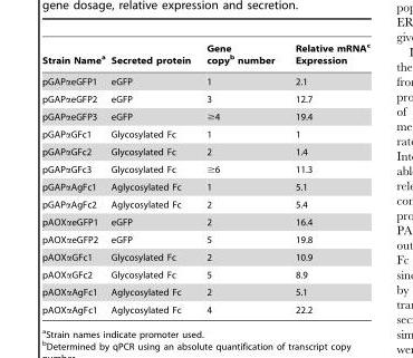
<table><thead><tr><td>Strain Name<sup>a</sup></td><td>Secreted protein</td><td>Gene copy<sup>b</sup> number</td><td>Relative mRNA<sup>c</sup> Expression</td></tr></thead><tbody><tr><td>pGAPαeGFP1</td><td>eGFP</td><td>1</td><td>2.1</td></tr><tr><td>pGAPαeGFP2</td><td>eGFP</td><td>3</td><td>12.7</td></tr><tr><td>pGAPαeGFP3</td><td>eGFP</td><td>≥4</td><td>19.4</td></tr><tr><td>pGAPαGFc1</td><td>Glycosylated Fc</td><td>1</td><td>1</td></tr><tr><td>pGAPαGFc2</td><td>Glycosylated Fc</td><td>2</td><td>1.4</td></tr><tr><td>pGAPαGFc3</td><td>Glycosylated Fc</td><td>≥6</td><td>11.3</td></tr><tr><td>pGAPαAgFc1</td><td>Aglycosylated Fc</td><td>1</td><td>5.1</td></tr><tr><td>pGAPαAgFc2</td><td>Aglycosylated Fc</td><td>2</td><td>5.4</td></tr><tr><td>pAOXαeGFP1</td><td>eGFP</td><td>2</td><td>16.4</td></tr><tr><td>pAOXαeGFP2</td><td>eGFP</td><td>5</td><td>19.8</td></tr><tr><td>pAOXαGFc1</td><td>Glycosylated Fc</td><td>2</td><td>10.9</td></tr><tr><td>pAOXαGFc2</td><td>Glycosylated Fc</td><td>5</td><td>8.9</td></tr><tr><td>pAOXαAgFc1</td><td>Aglycosylated Fc</td><td>2</td><td>5.1</td></tr><tr><td>pAOXαAgFc1</td><td>Aglycosylated Fc</td><td>4</td><td>22.2</td></tr></tbody></table>